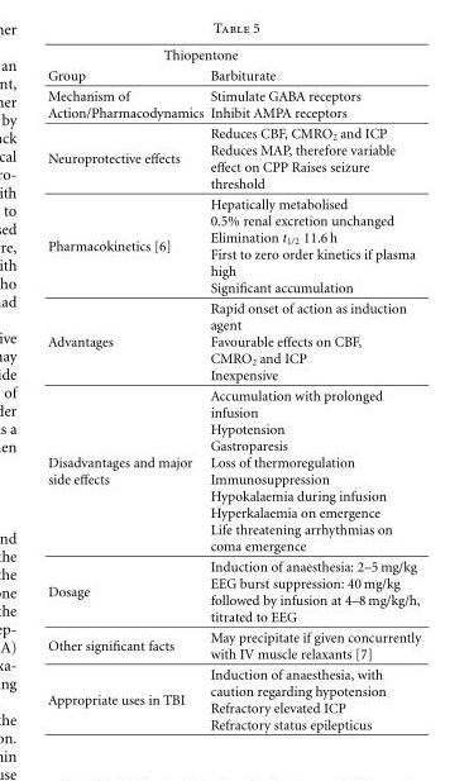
<table><thead><tr><td colspan="2">Thiopentone</td></tr><tr><td>Group</td><td>Barbiturate</td></tr></thead><tbody><tr><td>Mechanism of Action/Pharmacodynamics</td><td>Stimulate GABA receptors Inhibit AMPA receptors</td></tr><tr><td>Neuroprotective effects</td><td>Reduces CBF, CMRO<sub>2</sub> and ICP Reduces MAP, therefore variable effect on CPP Raises seizure threshold</td></tr><tr><td>Pharmacokinetics [6]</td><td>Hepatically metabolised 0.5% renal excretion unchanged Elimination t<sub>1/2</sub> 11.6 h First to zero order kinetics if plasma high Significant accumulation</td></tr><tr><td>Advantages</td><td>Rapid onset of action as induction agent Favourable effects on CBF, CMRO<sub>2</sub> and ICP Inexpensive</td></tr><tr><td>Disadvantages and major side effects</td><td>Accumulation with prolonged infusion Hypotension Gastroparesis Loss of thermoregulation Immunosuppression Hypokalaemia during infusion Hyperkalaemia on emergence Life threatening arrhythmias on coma emergence</td></tr><tr><td>Dosage</td><td>Induction of anaesthesia: 2–5 mg/kg EEG burst suppression: 40 mg/kg followed by infusion at 4–8 mg/kg/h, titrated to EEG</td></tr><tr><td>Other significant facts</td><td>May precipitate if given concurrently with IV muscle relaxants [7]</td></tr><tr><td>Appropriate uses in TBI</td><td>Induction of anaesthesia, with caution regarding hypotension Refractory elevated ICP Refractory status epilepticus</td></tr></tbody></table>